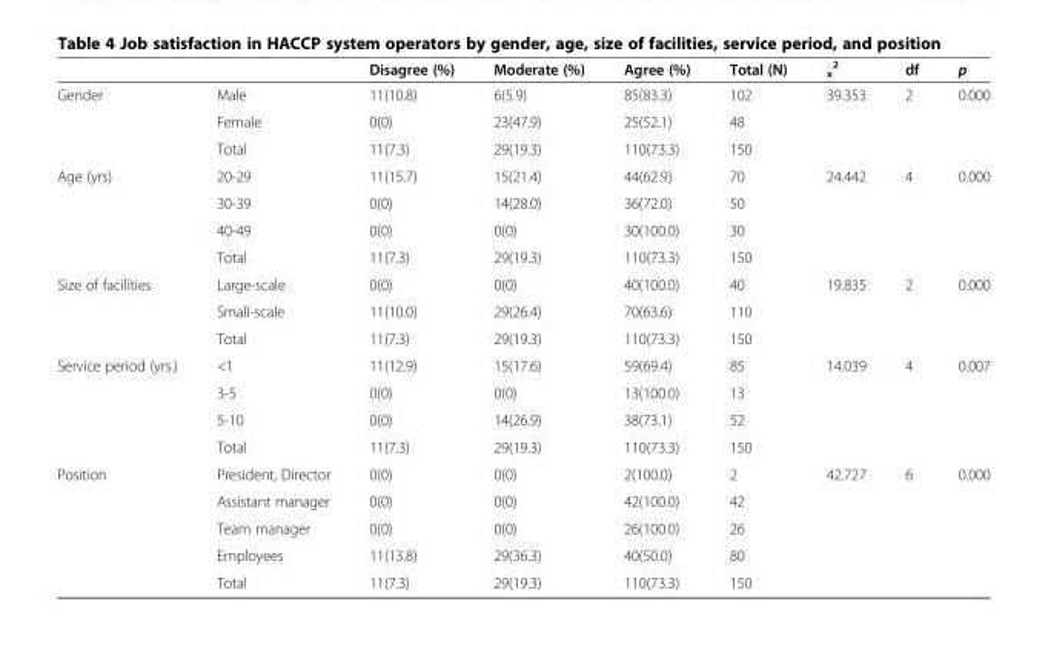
<table><thead><tr><td></td><td></td><td>Disagree (%)</td><td>Moderate (%)</td><td>Agree (%)</td><td>Total (N)</td><td><sub>x</sub> <sup>2</sup></td><td>df</td><td>p</td></tr></thead><tbody><tr><td rowspan="3">Gender</td><td>Male</td><td>11(10.8)</td><td>6(5.9)</td><td>85(83.3)</td><td>102</td><td rowspan="2">39.353</td><td rowspan="2">2</td><td rowspan="2">0.000</td></tr><tr><td>Female</td><td>0(0)</td><td>23(47.9)</td><td>25(52.1)</td><td>48</td></tr><tr><td>Total</td><td>11(7.3)</td><td>29(19.3)</td><td>110(73.3)</td><td>150</td><td></td><td></td><td></td></tr><tr><td rowspan="4">Age (yrs)</td><td>20-29</td><td>11(15.7)</td><td>15(21.4)</td><td>44(62.9)</td><td>70</td><td rowspan="3">24.442</td><td rowspan="3">4</td><td rowspan="3">0.000</td></tr><tr><td>30-39</td><td>0(0)</td><td>14(28.0)</td><td>36(72.0)</td><td>50</td></tr><tr><td>40-49</td><td>0(0)</td><td>0(0)</td><td>30(100.0)</td><td>30</td></tr><tr><td>Total</td><td>11(7.3)</td><td>29(19.3)</td><td>110(73.3)</td><td>150</td><td></td><td></td><td></td></tr><tr><td rowspan="3">Size of facilities</td><td>Large-scale</td><td>0(0)</td><td>0(0)</td><td>40(100.0)</td><td>40</td><td rowspan="2">19.835</td><td rowspan="2">2</td><td rowspan="2">0.000</td></tr><tr><td>Small-scale</td><td>11(10.0)</td><td>29(26.4)</td><td>70(63.6)</td><td>110</td></tr><tr><td>Total</td><td>11(7.3)</td><td>29(19.3)</td><td>110(73.3)</td><td>150</td><td></td><td></td><td></td></tr><tr><td rowspan="4">Service period (yrs.)</td><td>&lt;1</td><td>11(12.9)</td><td>15(17.6)</td><td>59(69.4)</td><td>85</td><td>14.039</td><td>4</td><td>0.007</td></tr><tr><td>3-5</td><td>0(0)</td><td>0(0)</td><td>13(100.0)</td><td>13</td><td></td><td></td><td></td></tr><tr><td>5-10</td><td>0(0)</td><td>14(26.9)</td><td>38(73.1)</td><td>52</td><td></td><td></td><td></td></tr><tr><td>Total</td><td>11(7.3)</td><td>29(19.3)</td><td>110(73.3)</td><td>150</td><td></td><td></td><td></td></tr><tr><td rowspan="5">Position</td><td>President, Director</td><td>0(0)</td><td>0(0)</td><td>2(100.0)</td><td>2</td><td>42.727</td><td>6</td><td>0.000</td></tr><tr><td>Assistant manager</td><td>0(0)</td><td>0(0)</td><td>42(100.0)</td><td>42</td><td></td><td></td><td></td></tr><tr><td>Team manager</td><td>0(0)</td><td>0(0)</td><td>26(100.0)</td><td>26</td><td></td><td></td><td></td></tr><tr><td>Employees</td><td>11(13.8)</td><td>29(36.3)</td><td>40(50.0)</td><td>80</td><td></td><td></td><td></td></tr><tr><td>Total</td><td>11(7.3)</td><td>29(19.3)</td><td>110(73.3)</td><td>150</td><td></td><td></td><td></td></tr></tbody></table>